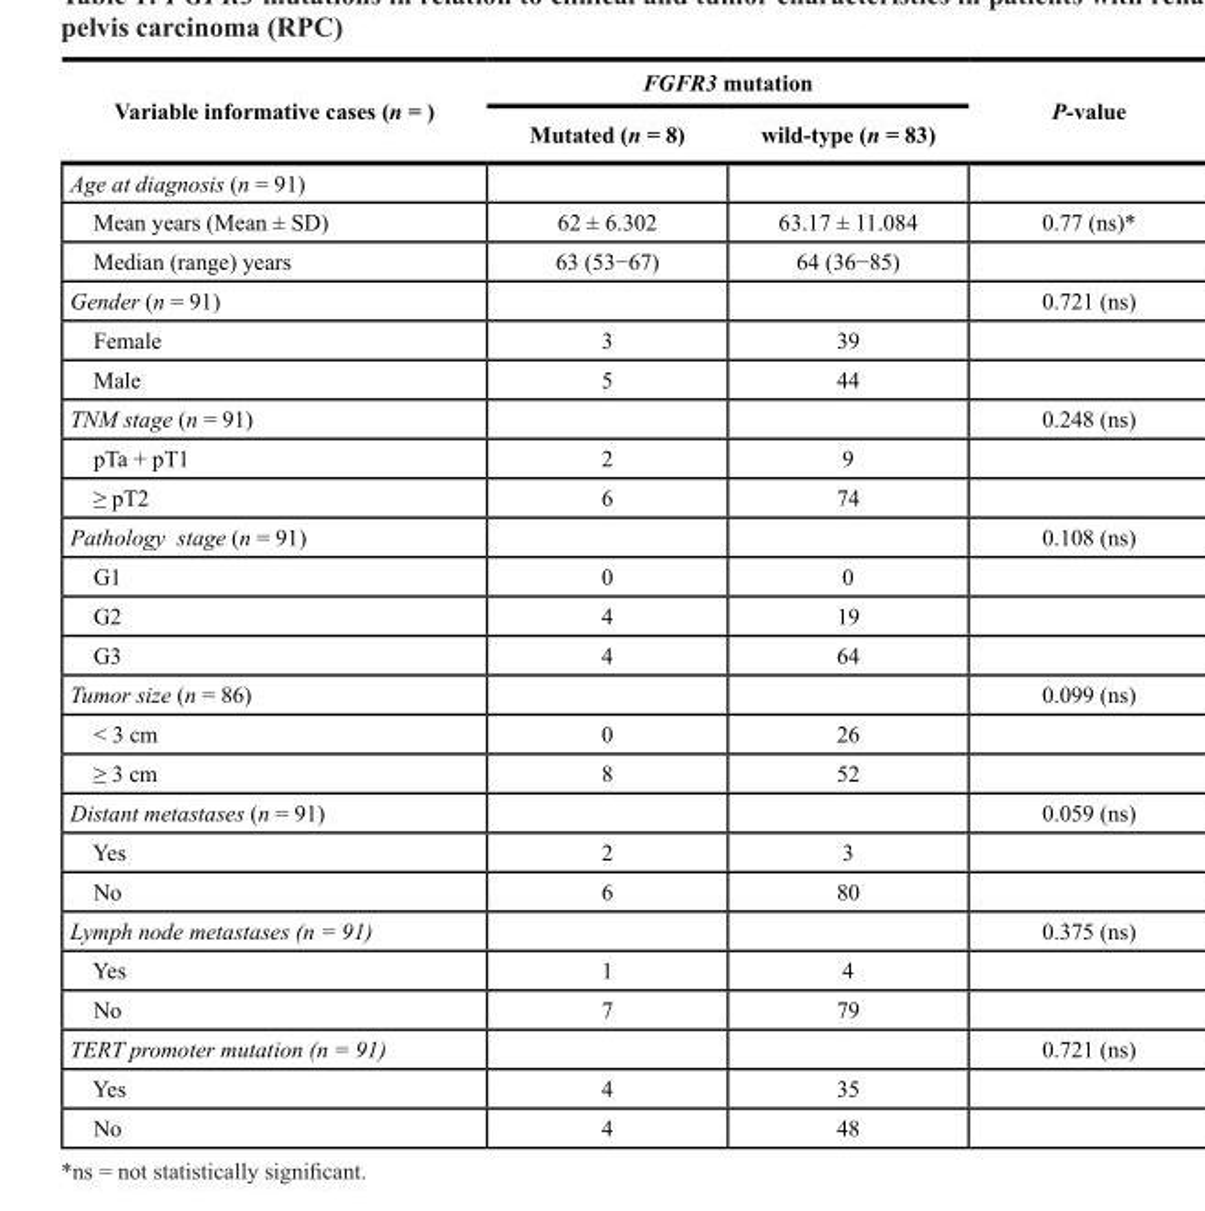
<table><thead><tr><td rowspan="2">Variable informative cases (n = )</td><td colspan="2">FGFR3 mutation</td><td rowspan="2">P-value</td></tr><tr><td>Mutated (n = 8)</td><td>wild-type (n = 83)</td></tr></thead><tbody><tr><td colspan="4">Age at diagnosis (n = 91)</td></tr><tr><td>Mean years (Mean ± SD)</td><td>62 ± 6.302</td><td>63.17 ± 11.084</td><td>0.77 (ns)*</td></tr><tr><td>Median (range) years</td><td>63 (53−67)</td><td>64 (36−85)</td><td></td></tr><tr><td>Gender (n = 91)</td><td></td><td></td><td>0.721 (ns)</td></tr><tr><td>Female</td><td>3</td><td>39</td><td></td></tr><tr><td>Male</td><td>5</td><td>44</td><td></td></tr><tr><td>TNM stage (n = 91)</td><td></td><td></td><td>0.248 (ns)</td></tr><tr><td>pTa + pT1</td><td>2</td><td>9</td><td></td></tr><tr><td>≥ pT2</td><td>6</td><td>74</td><td></td></tr><tr><td>Pathology stage (n = 91)</td><td></td><td></td><td>0.108 (ns)</td></tr><tr><td>G1</td><td>0</td><td>0</td><td></td></tr><tr><td>G2</td><td>4</td><td>19</td><td></td></tr><tr><td>G3</td><td>4</td><td>64</td><td></td></tr><tr><td>Tumor size (n = 86)</td><td></td><td></td><td>0.099 (ns)</td></tr><tr><td>&lt; 3 cm</td><td>0</td><td>26</td><td></td></tr><tr><td>≥ 3 cm</td><td>8</td><td>52</td><td></td></tr><tr><td>Distant metastases (n = 91)</td><td></td><td></td><td>0.059 (ns)</td></tr><tr><td>Yes</td><td>2</td><td>3</td><td></td></tr><tr><td>No</td><td>6</td><td>80</td><td></td></tr><tr><td>Lymph node metastases (n = 91)</td><td></td><td></td><td>0.375 (ns)</td></tr><tr><td>Yes</td><td>1</td><td>4</td><td></td></tr><tr><td>No</td><td>7</td><td>79</td><td></td></tr><tr><td>TERT promoter mutation (n = 91)</td><td></td><td></td><td>0.721 (ns)</td></tr><tr><td>Yes</td><td>4</td><td>35</td><td></td></tr><tr><td>No</td><td>4</td><td>48</td><td></td></tr></tbody></table>